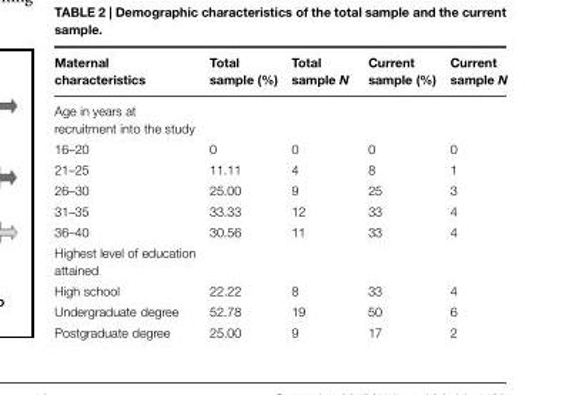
<table><thead><tr><td>Maternal characteristics</td><td>Total sample (%)</td><td>Total sample N</td><td>Current sample (%)</td><td>Current sample N</td></tr></thead><tbody><tr><td colspan="5">Age in years at recruitment into the study</td></tr><tr><td>16–20</td><td>0</td><td>0</td><td>0</td><td>0</td></tr><tr><td>21–25</td><td>11.11</td><td>4</td><td>8</td><td>1</td></tr><tr><td>26–30</td><td>25.00</td><td>9</td><td>25</td><td>3</td></tr><tr><td>31–35</td><td>33.33</td><td>12</td><td>33</td><td>4</td></tr><tr><td>36–40</td><td>30.56</td><td>11</td><td>33</td><td>4</td></tr><tr><td colspan="5">Highest level of education attained</td></tr><tr><td>High school</td><td>22.22</td><td>8</td><td>33</td><td>4</td></tr><tr><td>Undergraduate degree</td><td>52.78</td><td>19</td><td>50</td><td>6</td></tr><tr><td>Postgraduate degree</td><td>25.00</td><td>9</td><td>17</td><td>2</td></tr></tbody></table>